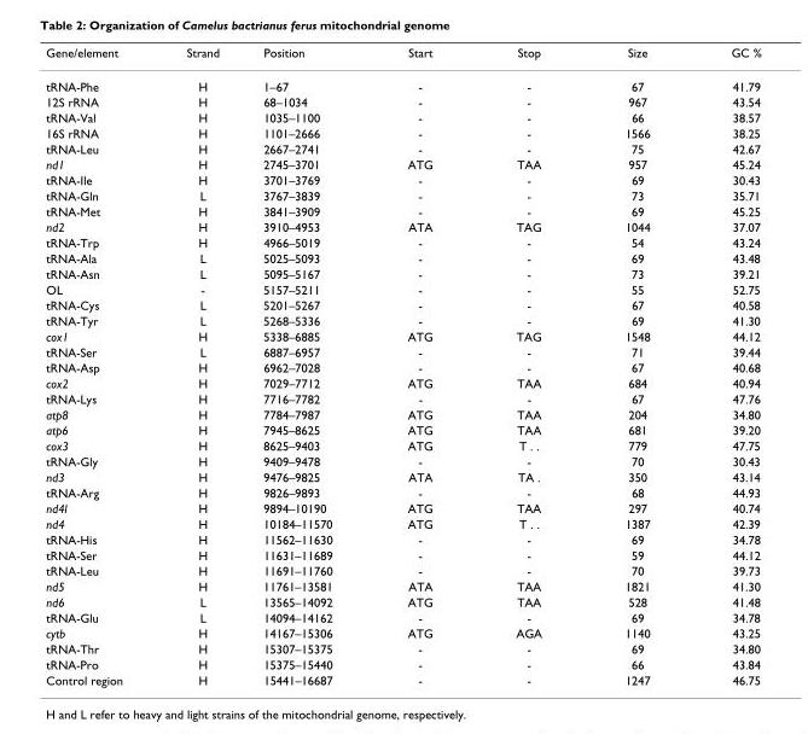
<table><thead><tr><td>Gene/element</td><td>Strand</td><td>Position</td><td>Start</td><td>Stop</td><td>Size</td><td>GC %</td></tr></thead><tbody><tr><td>tRNA-Phe</td><td>H</td><td>1–67</td><td>-</td><td>-</td><td>67</td><td>41.79</td></tr><tr><td>12S rRNA</td><td>H</td><td>68–1034</td><td>-</td><td>-</td><td>967</td><td>43.54</td></tr><tr><td>tRNA-Val</td><td>H</td><td>1035–1100</td><td>-</td><td>-</td><td>66</td><td>38.57</td></tr><tr><td>16S rRNA</td><td>H</td><td>1101–2666</td><td>-</td><td>-</td><td>1566</td><td>38.25</td></tr><tr><td>tRNA-Leu</td><td>H</td><td>2667–2741</td><td>-</td><td>-</td><td>75</td><td>42.67</td></tr><tr><td>nd1</td><td>H</td><td>2745–3701</td><td>ATG</td><td>TAA</td><td>957</td><td>45.24</td></tr><tr><td>tRNA-Ile</td><td>H</td><td>3701–3769</td><td>-</td><td>-</td><td>69</td><td>30.43</td></tr><tr><td>tRNA-Gln</td><td>L</td><td>3767–3839</td><td>-</td><td>-</td><td>73</td><td>35.71</td></tr><tr><td>tRNA-Met</td><td>H</td><td>3841–3909</td><td>-</td><td>-</td><td>69</td><td>45.25</td></tr><tr><td>nd2</td><td>H</td><td>3910–4953</td><td>ATA</td><td>TAG</td><td>1044</td><td>37.07</td></tr><tr><td>tRNA-Trp</td><td>H</td><td>4966–5019</td><td>-</td><td>-</td><td>54</td><td>43.24</td></tr><tr><td>tRNA-Ala</td><td>L</td><td>5025–5093</td><td>-</td><td>-</td><td>69</td><td>43.48</td></tr><tr><td>tRNA-Asn</td><td>L</td><td>5095–5167</td><td>-</td><td>-</td><td>73</td><td>39.21</td></tr><tr><td>OL</td><td>-</td><td>5157–5211</td><td>-</td><td>-</td><td>55</td><td>52.75</td></tr><tr><td>tRNA-Cys</td><td>L</td><td>5201–5267</td><td>-</td><td>-</td><td>67</td><td>40.58</td></tr><tr><td>tRNA-Tyr</td><td>L</td><td>5268–5336</td><td>-</td><td>-</td><td>69</td><td>41.30</td></tr><tr><td>cox1</td><td>H</td><td>5338–6885</td><td>ATG</td><td>TAG</td><td>1548</td><td>44.12</td></tr><tr><td>tRNA-Ser</td><td>L</td><td>6887–6957</td><td>-</td><td>-</td><td>71</td><td>39.44</td></tr><tr><td>tRNA-Asp</td><td>H</td><td>6962–7028</td><td>-</td><td>-</td><td>67</td><td>40.68</td></tr><tr><td>cox2</td><td>H</td><td>7029–7712</td><td>ATG</td><td>TAA</td><td>684</td><td>40.94</td></tr><tr><td>tRNA-Lys</td><td>H</td><td>7716–7782</td><td>-</td><td>-</td><td>67</td><td>47.76</td></tr><tr><td>atp8</td><td>H</td><td>7784–7987</td><td>ATG</td><td>TAA</td><td>204</td><td>34.80</td></tr><tr><td>atp6</td><td>H</td><td>7945–8625</td><td>ATG</td><td>TAA</td><td>681</td><td>39.20</td></tr><tr><td>cox3</td><td>H</td><td>8625–9403</td><td>ATG</td><td>T . .</td><td>779</td><td>47.75</td></tr><tr><td>tRNA-Gly</td><td>H</td><td>9409–9478</td><td>-</td><td>-</td><td>70</td><td>30.43</td></tr><tr><td>nd3</td><td>H</td><td>9476–9825</td><td>ATA</td><td>TA .</td><td>350</td><td>43.14</td></tr><tr><td>tRNA-Arg</td><td>H</td><td>9826–9893</td><td>-</td><td>-</td><td>68</td><td>44.93</td></tr><tr><td>nd4l</td><td>H</td><td>9894–10190</td><td>ATG</td><td>TAA</td><td>297</td><td>40.74</td></tr><tr><td>nd4</td><td>H</td><td>10184–11570</td><td>ATG</td><td>T . .</td><td>1387</td><td>42.39</td></tr><tr><td>tRNA-His</td><td>H</td><td>11562–11630</td><td>-</td><td>-</td><td>69</td><td>34.78</td></tr><tr><td>tRNA-Ser</td><td>H</td><td>11631–11689</td><td>-</td><td>-</td><td>59</td><td>44.12</td></tr><tr><td>tRNA-Leu</td><td>H</td><td>11691–11760</td><td>-</td><td>-</td><td>70</td><td>39.73</td></tr><tr><td>nd5</td><td>H</td><td>11761–13581</td><td>ATA</td><td>TAA</td><td>1821</td><td>41.30</td></tr><tr><td>nd6</td><td>L</td><td>13565–14092</td><td>ATG</td><td>TAA</td><td>528</td><td>41.48</td></tr><tr><td>tRNA-Glu</td><td>L</td><td>14094–14162</td><td>-</td><td>-</td><td>69</td><td>34.78</td></tr><tr><td>cytb</td><td>H</td><td>14167–15306</td><td>ATG</td><td>AGA</td><td>1140</td><td>43.25</td></tr><tr><td>tRNA-Thr</td><td>H</td><td>15307–15375</td><td>-</td><td>-</td><td>69</td><td>34.80</td></tr><tr><td>tRNA-Pro</td><td>H</td><td>15375–15440</td><td>-</td><td>-</td><td>66</td><td>43.84</td></tr><tr><td>Control region</td><td>H</td><td>15441–16687</td><td>-</td><td>-</td><td>1247</td><td>46.75</td></tr></tbody></table>